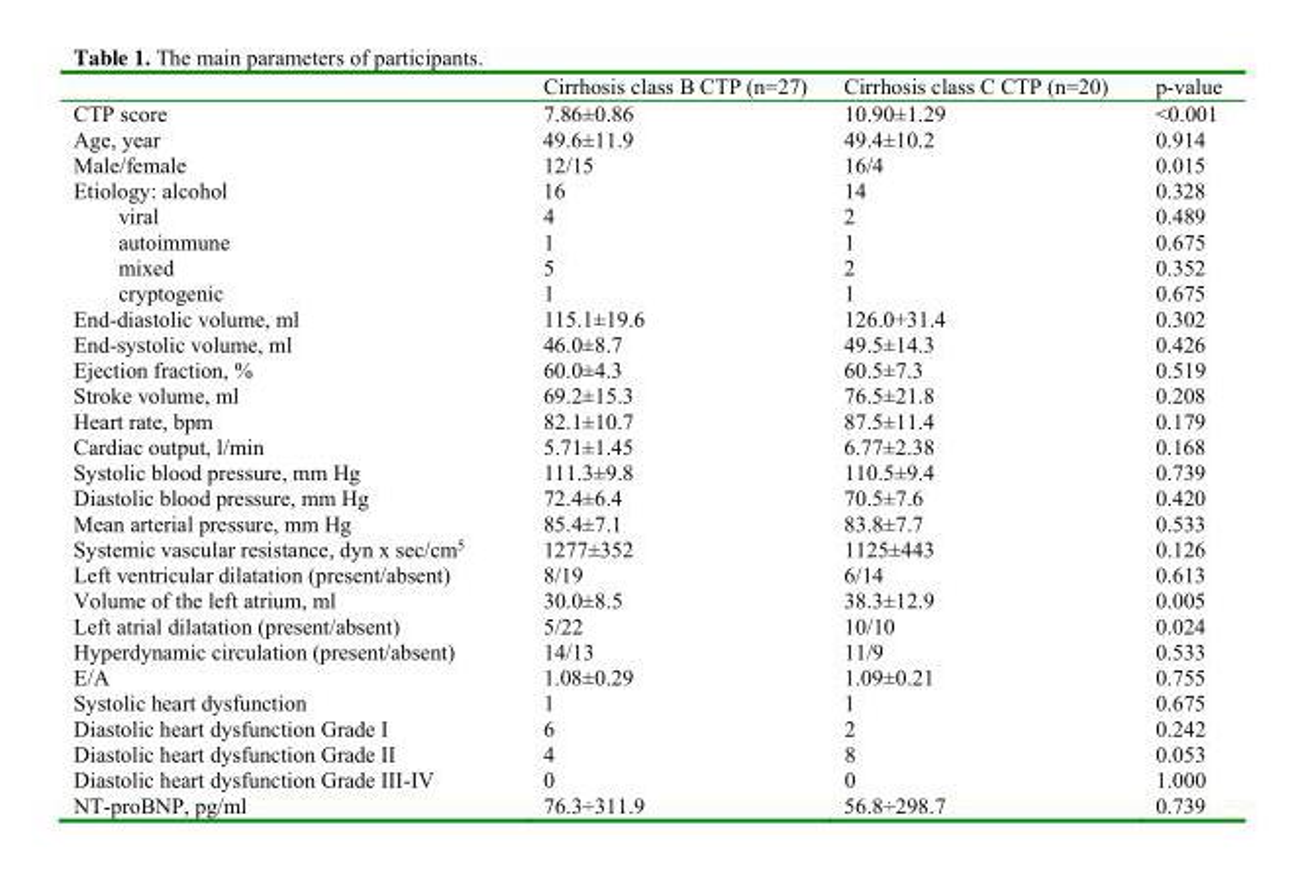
<table><thead><tr><td></td><td>Cirrhosis class B CTP (n=27)</td><td>Cirrhosis class C CTP (n=20)</td><td>p-value</td></tr></thead><tbody><tr><td>CTP score</td><td>7.86±0.86</td><td>10.90±1.29</td><td>&lt;0.001</td></tr><tr><td>Age, year</td><td>49.6±11.9</td><td>49.4±10.2</td><td>0.914</td></tr><tr><td>Male/female</td><td>12/15</td><td>16/4</td><td>0.015</td></tr><tr><td>Etiology: alcohol</td><td>16</td><td>14</td><td>0.328</td></tr><tr><td>viral</td><td>4</td><td>2</td><td>0.489</td></tr><tr><td>autoimmune</td><td>1</td><td>1</td><td>0.675</td></tr><tr><td>mixed</td><td>5</td><td>2</td><td>0.352</td></tr><tr><td>cryptogenic</td><td>1</td><td>1</td><td>0.675</td></tr><tr><td>End-diastolic volume, ml</td><td>115.1±19.6</td><td>126.0+31.4</td><td>0.302</td></tr><tr><td>End-systolic volume, ml</td><td>46.0±8.7</td><td>49.5±14.3</td><td>0.426</td></tr><tr><td>Ejection fraction, %</td><td>60.0±4.3</td><td>60.5±7.3</td><td>0.519</td></tr><tr><td>Stroke volume, ml</td><td>69.2±15.3</td><td>76.5±21.8</td><td>0.208</td></tr><tr><td>Heart rate, bpm</td><td>82.1±10.7</td><td>87.5±11.4</td><td>0.179</td></tr><tr><td>Cardiac output, l/min</td><td>5.71±1.45</td><td>6.77±2.38</td><td>0.168</td></tr><tr><td>Systolic blood pressure, mm Hg</td><td>111.3±9.8</td><td>110.5±9.4</td><td>0.739</td></tr><tr><td>Diastolic blood pressure, mm Hg</td><td>72.4±6.4</td><td>70.5±7.6</td><td>0.420</td></tr><tr><td>Mean arterial pressure, mm Hg</td><td>85.4±7.1</td><td>83.8±7.7</td><td>0.533</td></tr><tr><td>Systemic vascular resistance, dyn х sec/cm<sup>5</sup></td><td>1277±352</td><td>1125±443</td><td>0.126</td></tr><tr><td>Left ventricular dilatation (present/absent)</td><td>8/19</td><td>6/14</td><td>0.613</td></tr><tr><td>Volume of the left atrium, ml</td><td>30.0±8.5</td><td>38.3±12.9</td><td>0.005</td></tr><tr><td>Left atrial dilatation (present/absent)</td><td>5/22</td><td>10/10</td><td>0.024</td></tr><tr><td>Hyperdynamic circulation (present/absent)</td><td>14/13</td><td>11/9</td><td>0.533</td></tr><tr><td>Е/А</td><td>1.08±0.29</td><td>1.09±0.21</td><td>0.755</td></tr><tr><td>Systolic heart dysfunction</td><td>1</td><td>1</td><td>0.675</td></tr><tr><td>Diastolic heart dysfunction Grade I</td><td>6</td><td>2</td><td>0.242</td></tr><tr><td>Diastolic heart dysfunction Grade II</td><td>4</td><td>8</td><td>0.053</td></tr><tr><td>Diastolic heart dysfunction Grade III-IV</td><td>0</td><td>0</td><td>1.000</td></tr><tr><td>NT-proBNP, pg/ml</td><td>76.3÷311.9</td><td>56.8÷298.7</td><td>0.739</td></tr></tbody></table>